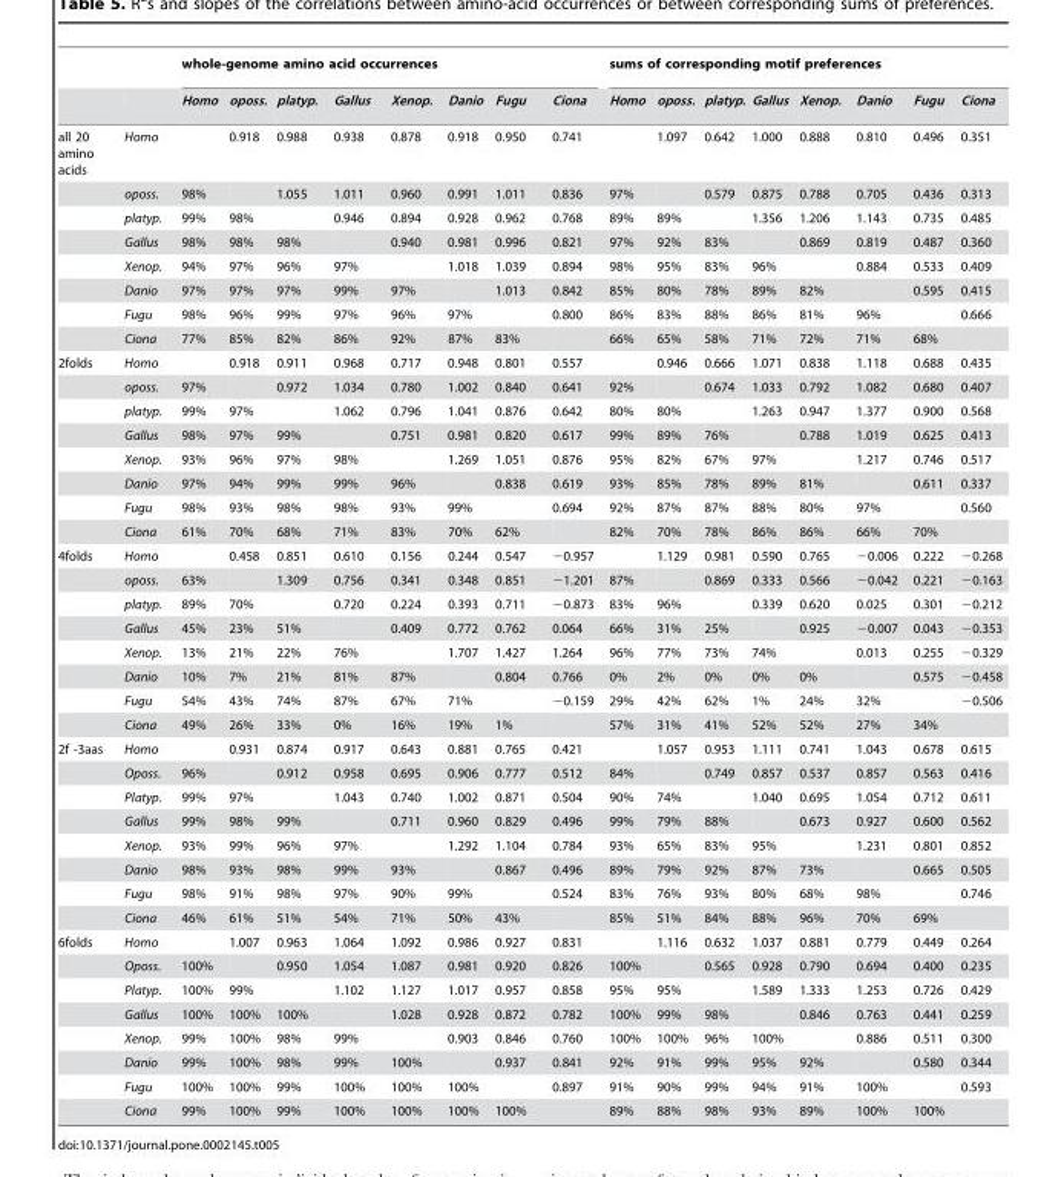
<table><thead><tr><td rowspan="2"></td><td rowspan="2"></td><td colspan="8">whole-genome amino acid occurrences</td><td colspan="8">sums of corresponding motif preferences</td></tr><tr><td>Homo</td><td>oposs.</td><td>platyp.</td><td>Gallus</td><td>Xenop.</td><td>Danio</td><td>Fugu</td><td>Ciona</td><td>Homo</td><td>oposs.</td><td>platyp.</td><td>Gallus</td><td>Xenop.</td><td>Danio</td><td>Fugu</td><td>Ciona</td></tr></thead><tbody><tr><td rowspan="8">all 20 amino acids</td><td>Homo</td><td></td><td>0.918</td><td>0.988</td><td>0.938</td><td>0.878</td><td>0.918</td><td>0.950</td><td>0.741</td><td></td><td>1.097</td><td>0.642</td><td>1.000</td><td>0.888</td><td>0.810</td><td>0.496</td><td>0.351</td></tr><tr><td>oposs.</td><td>98%</td><td></td><td>1.055</td><td>1.011</td><td>0.960</td><td>0.991</td><td>1.011</td><td>0.836</td><td>97%</td><td></td><td>0.579</td><td>0.875</td><td>0.788</td><td>0.705</td><td>0.436</td><td>0.313</td></tr><tr><td>platyp.</td><td>99%</td><td>98%</td><td></td><td>0.946</td><td>0.894</td><td>0.928</td><td>0.962</td><td>0.768</td><td>89%</td><td>89%</td><td></td><td>1.356</td><td>1.206</td><td>1.143</td><td>0.735</td><td>0.485</td></tr><tr><td>Gallus</td><td>98%</td><td>98%</td><td>98%</td><td></td><td>0.940</td><td>0.981</td><td>0.996</td><td>0.821</td><td>97%</td><td>92%</td><td>83%</td><td></td><td>0.869</td><td>0.819</td><td>0.487</td><td>0.360</td></tr><tr><td>Xenop.</td><td>94%</td><td>97%</td><td>96%</td><td>97%</td><td></td><td>1.018</td><td>1.039</td><td>0.894</td><td>98%</td><td>95%</td><td>83%</td><td>96%</td><td></td><td>0.884</td><td>0.533</td><td>0.409</td></tr><tr><td>Danio</td><td>97%</td><td>97%</td><td>97%</td><td>99%</td><td>97%</td><td></td><td>1.013</td><td>0.842</td><td>85%</td><td>80%</td><td>78%</td><td>89%</td><td>82%</td><td></td><td>0.595</td><td>0.415</td></tr><tr><td>Fugu</td><td>98%</td><td>96%</td><td>99%</td><td>97%</td><td>96%</td><td>97%</td><td></td><td>0.800</td><td>86%</td><td>83%</td><td>88%</td><td>86%</td><td>81%</td><td>96%</td><td></td><td>0.666</td></tr><tr><td>Ciona</td><td>77%</td><td>85%</td><td>82%</td><td>86%</td><td>92%</td><td>87%</td><td>83%</td><td></td><td>66%</td><td>65%</td><td>58%</td><td>71%</td><td>72%</td><td>71%</td><td>68%</td><td></td></tr><tr><td rowspan="8">2folds</td><td>Homo</td><td></td><td>0.918</td><td>0.911</td><td>0.968</td><td>0.717</td><td>0.948</td><td>0.801</td><td>0.557</td><td></td><td>0.946</td><td>0.666</td><td>1.071</td><td>0.838</td><td>1.118</td><td>0.688</td><td>0.435</td></tr><tr><td>oposs.</td><td>97%</td><td></td><td>0.972</td><td>1.034</td><td>0.780</td><td>1.002</td><td>0.840</td><td>0.641</td><td>92%</td><td></td><td>0.674</td><td>1.033</td><td>0.792</td><td>1.082</td><td>0.680</td><td>0.407</td></tr><tr><td>platyp.</td><td>99%</td><td>97%</td><td></td><td>1.062</td><td>0.796</td><td>1.041</td><td>0.876</td><td>0.642</td><td>80%</td><td>80%</td><td></td><td>1.263</td><td>0.947</td><td>1.377</td><td>0.900</td><td>0.568</td></tr><tr><td>Gallus</td><td>98%</td><td>97%</td><td>99%</td><td></td><td>0.751</td><td>0.981</td><td>0.820</td><td>0.617</td><td>99%</td><td>89%</td><td>76%</td><td></td><td>0.788</td><td>1.019</td><td>0.625</td><td>0.413</td></tr><tr><td>Xenop.</td><td>93%</td><td>96%</td><td>97%</td><td>98%</td><td></td><td>1.269</td><td>1.051</td><td>0.876</td><td>95%</td><td>82%</td><td>67%</td><td>97%</td><td></td><td>1.217</td><td>0.746</td><td>0.517</td></tr><tr><td>Danio</td><td>97%</td><td>94%</td><td>99%</td><td>99%</td><td>96%</td><td></td><td>0.838</td><td>0.619</td><td>93%</td><td>85%</td><td>78%</td><td>89%</td><td>81%</td><td></td><td>0.611</td><td>0.337</td></tr><tr><td>Fugu</td><td>98%</td><td>93%</td><td>98%</td><td>98%</td><td>93%</td><td>99%</td><td></td><td>0.694</td><td>92%</td><td>87%</td><td>87%</td><td>88%</td><td>80%</td><td>97%</td><td></td><td>0.560</td></tr><tr><td>Ciona</td><td>61%</td><td>70%</td><td>68%</td><td>71%</td><td>83%</td><td>70%</td><td>62%</td><td></td><td>82%</td><td>70%</td><td>78%</td><td>86%</td><td>86%</td><td>66%</td><td>70%</td><td></td></tr><tr><td rowspan="8">4folds</td><td>Homo</td><td></td><td>0.458</td><td>0.851</td><td>0.610</td><td>0.156</td><td>0.244</td><td>0.547</td><td>−0.957</td><td></td><td>1.129</td><td>0.981</td><td>0.590</td><td>0.765</td><td>−0.006</td><td>0.222</td><td>−0.268</td></tr><tr><td>oposs.</td><td>63%</td><td></td><td>1.309</td><td>0.756</td><td>0.341</td><td>0.348</td><td>0.851</td><td>−1.201</td><td>87%</td><td></td><td>0.869</td><td>0.333</td><td>0.566</td><td>−0.042</td><td>0.221</td><td>−0.163</td></tr><tr><td>platyp.</td><td>89%</td><td>70%</td><td></td><td>0.720</td><td>0.224</td><td>0.393</td><td>0.711</td><td>−0.873</td><td>83%</td><td>96%</td><td></td><td>0.339</td><td>0.620</td><td>0.025</td><td>0.301</td><td>−0.212</td></tr><tr><td>Gallus</td><td>45%</td><td>23%</td><td>51%</td><td></td><td>0.409</td><td>0.772</td><td>0.762</td><td>0.064</td><td>66%</td><td>31%</td><td>25%</td><td></td><td>0.925</td><td>−0.007</td><td>0.043</td><td>−0.353</td></tr><tr><td>Xenop.</td><td>13%</td><td>21%</td><td>22%</td><td>76%</td><td></td><td>1.707</td><td>1.427</td><td>1.264</td><td>96%</td><td>77%</td><td>73%</td><td>74%</td><td></td><td>0.013</td><td>0.255</td><td>−0.329</td></tr><tr><td>Danio</td><td>10%</td><td>7%</td><td>21%</td><td>81%</td><td>87%</td><td></td><td>0.804</td><td>0.766</td><td>0%</td><td>2%</td><td>0%</td><td>0%</td><td>0%</td><td></td><td>0.575</td><td>−0.458</td></tr><tr><td>Fugu</td><td>54%</td><td>43%</td><td>74%</td><td>87%</td><td>67%</td><td>71%</td><td></td><td>−0.159</td><td>29%</td><td>42%</td><td>62%</td><td>1%</td><td>24%</td><td>32%</td><td></td><td>−0.506</td></tr><tr><td>Ciona</td><td>49%</td><td>26%</td><td>33%</td><td>0%</td><td>16%</td><td>19%</td><td>1%</td><td></td><td>57%</td><td>31%</td><td>41%</td><td>52%</td><td>52%</td><td>27%</td><td>34%</td><td></td></tr><tr><td rowspan="8">2f -3aas</td><td>Homo</td><td></td><td>0.931</td><td>0.874</td><td>0.917</td><td>0.643</td><td>0.881</td><td>0.765</td><td>0.421</td><td></td><td>1.057</td><td>0.953</td><td>1.111</td><td>0.741</td><td>1.043</td><td>0.678</td><td>0.615</td></tr><tr><td>Oposs.</td><td>96%</td><td></td><td>0.912</td><td>0.958</td><td>0.695</td><td>0.906</td><td>0.777</td><td>0.512</td><td>84%</td><td></td><td>0.749</td><td>0.857</td><td>0.537</td><td>0.857</td><td>0.563</td><td>0.416</td></tr><tr><td>Platyp.</td><td>99%</td><td>97%</td><td></td><td>1.043</td><td>0.740</td><td>1.002</td><td>0.871</td><td>0.504</td><td>90%</td><td>74%</td><td></td><td>1.040</td><td>0.695</td><td>1.054</td><td>0.712</td><td>0.611</td></tr><tr><td>Gallus</td><td>99%</td><td>98%</td><td>99%</td><td></td><td>0.711</td><td>0.960</td><td>0.829</td><td>0.496</td><td>99%</td><td>79%</td><td>88%</td><td></td><td>0.673</td><td>0.927</td><td>0.600</td><td>0.562</td></tr><tr><td>Xenop.</td><td>93%</td><td>99%</td><td>96%</td><td>97%</td><td></td><td>1.292</td><td>1.104</td><td>0.784</td><td>93%</td><td>65%</td><td>83%</td><td>95%</td><td></td><td>1.231</td><td>0.801</td><td>0.852</td></tr><tr><td>Danio</td><td>98%</td><td>93%</td><td>98%</td><td>99%</td><td>93%</td><td></td><td>0.867</td><td>0.496</td><td>89%</td><td>79%</td><td>92%</td><td>87%</td><td>73%</td><td></td><td>0.665</td><td>0.505</td></tr><tr><td>Fugu</td><td>98%</td><td>91%</td><td>98%</td><td>97%</td><td>90%</td><td>99%</td><td></td><td>0.524</td><td>83%</td><td>76%</td><td>93%</td><td>80%</td><td>68%</td><td>98%</td><td></td><td>0.746</td></tr><tr><td>Ciona</td><td>46%</td><td>61%</td><td>51%</td><td>54%</td><td>71%</td><td>50%</td><td>43%</td><td></td><td>85%</td><td>51%</td><td>84%</td><td>88%</td><td>96%</td><td>70%</td><td>69%</td><td></td></tr><tr><td rowspan="8">6folds</td><td>Homo</td><td></td><td>1.007</td><td>0.963</td><td>1.064</td><td>1.092</td><td>0.986</td><td>0.927</td><td>0.831</td><td></td><td>1.116</td><td>0.632</td><td>1.037</td><td>0.881</td><td>0.779</td><td>0.449</td><td>0.264</td></tr><tr><td>Oposs.</td><td>100%</td><td></td><td>0.950</td><td>1.054</td><td>1.087</td><td>0.981</td><td>0.920</td><td>0.826</td><td>100%</td><td></td><td>0.565</td><td>0.928</td><td>0.790</td><td>0.694</td><td>0.400</td><td>0.235</td></tr><tr><td>Platyp.</td><td>100%</td><td>99%</td><td></td><td>1.102</td><td>1.127</td><td>1.017</td><td>0.957</td><td>0.858</td><td>95%</td><td>95%</td><td></td><td>1.589</td><td>1.333</td><td>1.253</td><td>0.726</td><td>0.429</td></tr><tr><td>Gallus</td><td>100%</td><td>100%</td><td>100%</td><td></td><td>1.028</td><td>0.928</td><td>0.872</td><td>0.782</td><td>100%</td><td>99%</td><td>98%</td><td></td><td>0.846</td><td>0.763</td><td>0.441</td><td>0.259</td></tr><tr><td>Xenop.</td><td>99%</td><td>100%</td><td>98%</td><td>99%</td><td></td><td>0.903</td><td>0.846</td><td>0.760</td><td>100%</td><td>100%</td><td>96%</td><td>100%</td><td></td><td>0.886</td><td>0.511</td><td>0.300</td></tr><tr><td>Danio</td><td>99%</td><td>100%</td><td>98%</td><td>99%</td><td>100%</td><td></td><td>0.937</td><td>0.841</td><td>92%</td><td>91%</td><td>99%</td><td>95%</td><td>92%</td><td></td><td>0.580</td><td>0.344</td></tr><tr><td>Fugu</td><td>100%</td><td>100%</td><td>99%</td><td>100%</td><td>100%</td><td>100%</td><td></td><td>0.897</td><td>91%</td><td>90%</td><td>99%</td><td>94%</td><td>91%</td><td>100%</td><td></td><td>0.593</td></tr><tr><td>Ciona</td><td>99%</td><td>100%</td><td>99%</td><td>100%</td><td>100%</td><td>100%</td><td>100%</td><td></td><td>89%</td><td>88%</td><td>98%</td><td>93%</td><td>89%</td><td>100%</td><td>100%</td><td></td></tr></tbody></table>